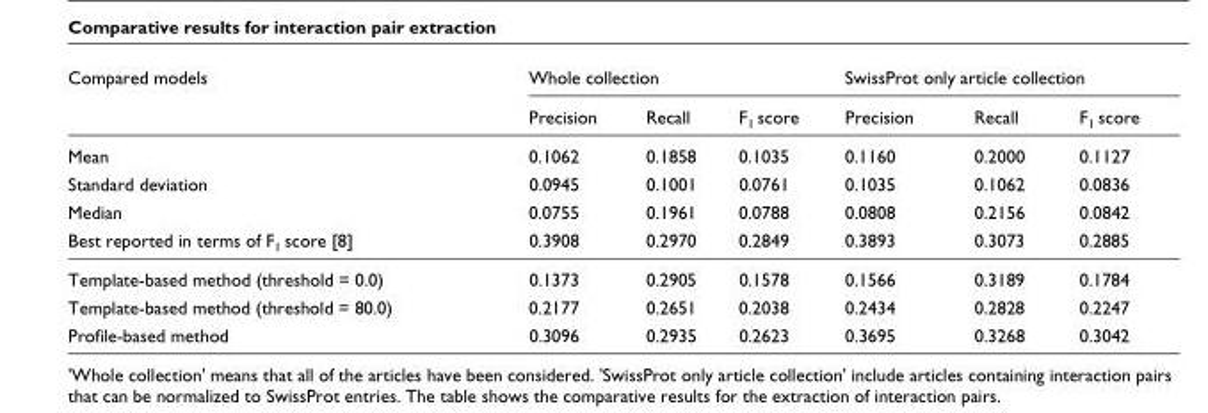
<table><thead><tr><td rowspan="2">Compared models</td><td colspan="3">Whole collection</td><td colspan="3">SwissProt only article collection</td></tr><tr><td>Precision</td><td>Recall</td><td>F<sub>1</sub> score</td><td>Precision</td><td>Recall</td><td>F<sub>1</sub> score</td></tr></thead><tbody><tr><td>Mean</td><td>0.1062</td><td>0.1858</td><td>0.1035</td><td>0.1160</td><td>0.2000</td><td>0.1127</td></tr><tr><td>Standard deviation</td><td>0.0945</td><td>0.1001</td><td>0.0761</td><td>0.1035</td><td>0.1062</td><td>0.0836</td></tr><tr><td>Median</td><td>0.0755</td><td>0.1961</td><td>0.0788</td><td>0.0808</td><td>0.2156</td><td>0.0842</td></tr><tr><td>Best reported in terms of F<sub>1</sub> score [8]</td><td>0.3908</td><td>0.2970</td><td>0.2849</td><td>0.3893</td><td>0.3073</td><td>0.2885</td></tr><tr><td>Template-based method (threshold = 0.0)</td><td>0.1373</td><td>0.2905</td><td>0.1578</td><td>0.1566</td><td>0.3189</td><td>0.1784</td></tr><tr><td>Template-based method (threshold = 80.0)</td><td>0.2177</td><td>0.2651</td><td>0.2038</td><td>0.2434</td><td>0.2828</td><td>0.2247</td></tr><tr><td>Profile-based method</td><td>0.3096</td><td>0.2935</td><td>0.2623</td><td>0.3695</td><td>0.3268</td><td>0.3042</td></tr></tbody></table>